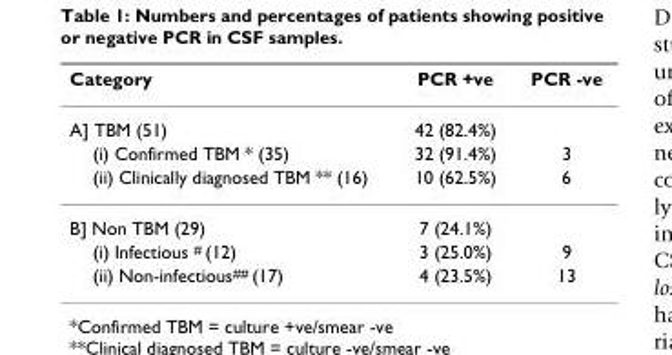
<table><thead><tr><td>Category</td><td>PCR +ve</td><td>PCR -ve</td></tr></thead><tbody><tr><td>A] TBM (51)</td><td>42 (82.4%)</td><td></td></tr><tr><td>(i) Confirmed TBM * (35)</td><td>32 (91.4%)</td><td>3</td></tr><tr><td>(ii) Clinically diagnosed TBM ** (16)</td><td>10 (62.5%)</td><td>6</td></tr><tr><td>B] Non TBM (29)</td><td>7 (24.1%)</td><td></td></tr><tr><td>(i) Infectious <sup>#</sup> (12)</td><td>3 (25.0%)</td><td>9</td></tr><tr><td>(ii) Non-infectious<sup>##</sup> (17)</td><td>4 (23.5%)</td><td>13</td></tr></tbody></table>